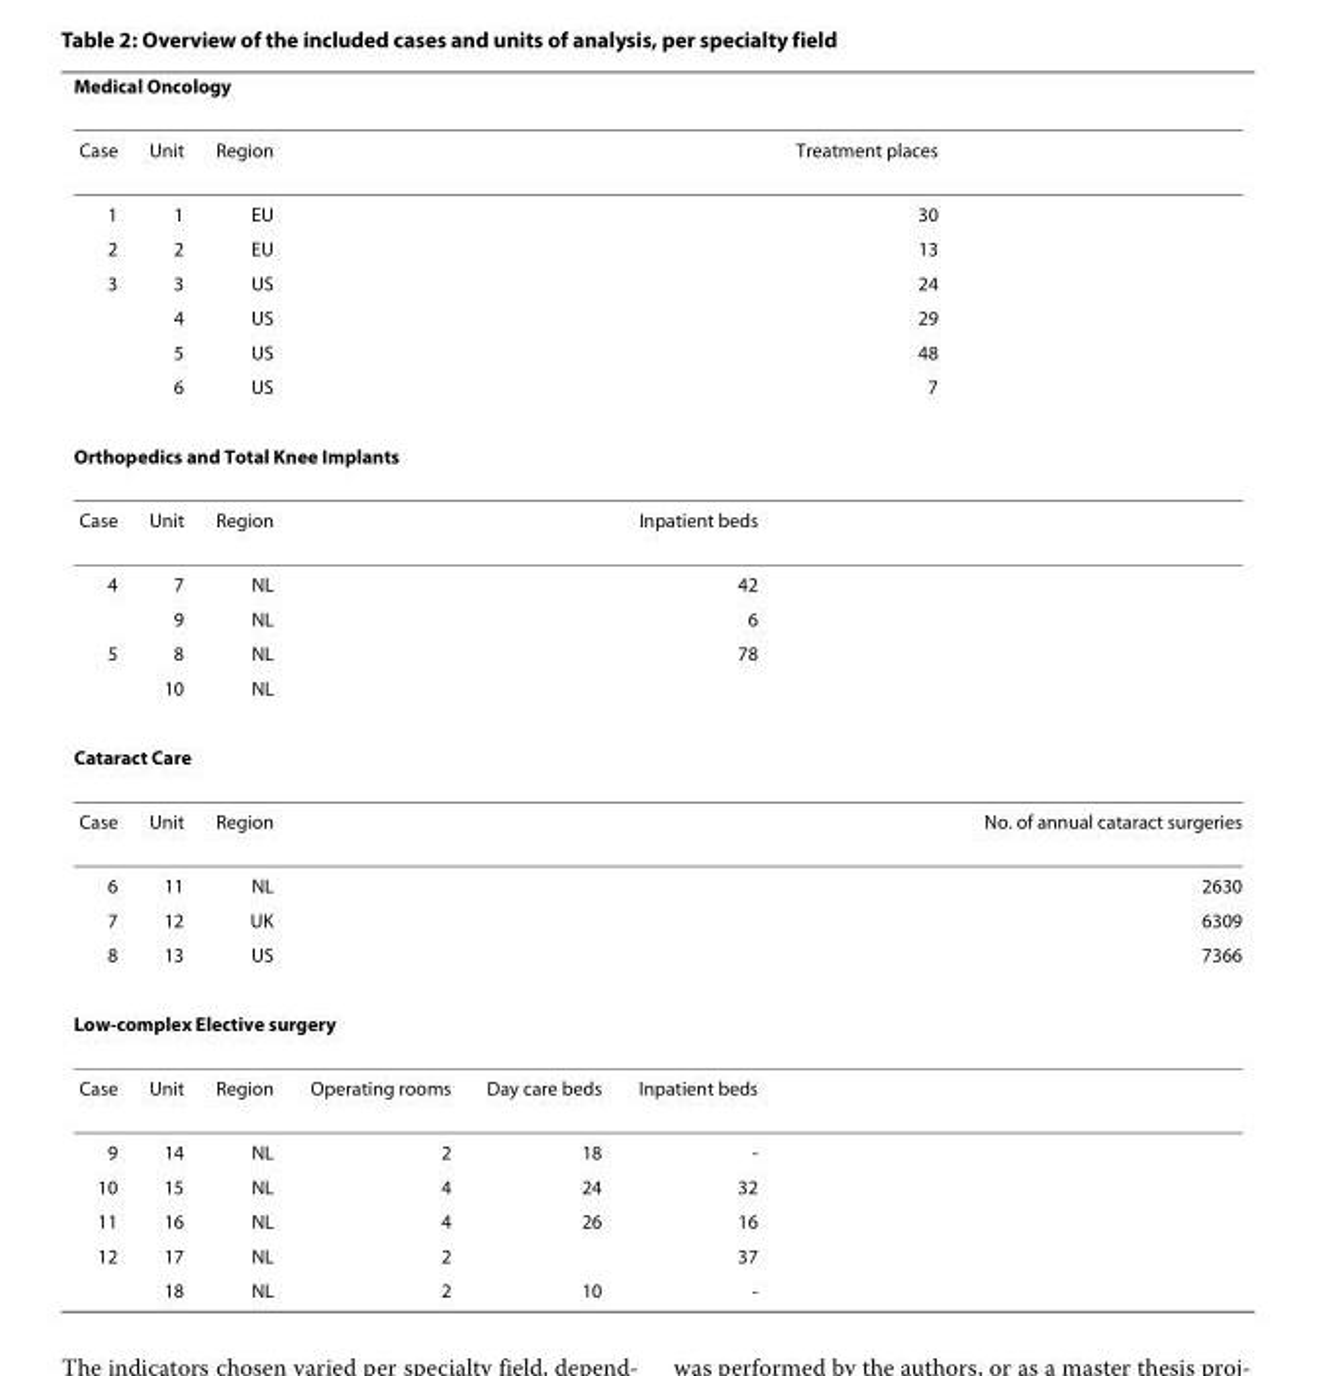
<table><thead><tr><td colspan="8">Medical Oncology</td></tr><tr><td>Case</td><td>Unit</td><td>Region</td><td></td><td></td><td></td><td>Treatment places</td><td></td></tr></thead><tbody><tr><td>1</td><td>1</td><td>EU</td><td></td><td></td><td></td><td>30</td><td></td></tr><tr><td>2</td><td>2</td><td>EU</td><td></td><td></td><td></td><td>13</td><td></td></tr><tr><td rowspan="4">3</td><td>3</td><td>US</td><td></td><td></td><td></td><td>24</td><td></td></tr><tr><td>4</td><td>US</td><td></td><td></td><td></td><td>29</td><td></td></tr><tr><td>5</td><td>US</td><td></td><td></td><td></td><td>48</td><td></td></tr><tr><td>6</td><td>US</td><td></td><td></td><td></td><td>7</td><td></td></tr><tr><td colspan="8">Orthopedics and Total Knee Implants</td></tr><tr><td>Case</td><td>Unit</td><td>Region</td><td></td><td></td><td>Inpatient beds</td><td></td><td></td></tr><tr><td rowspan="2">4</td><td>7</td><td>NL</td><td></td><td></td><td>42</td><td></td><td></td></tr><tr><td>9</td><td>NL</td><td></td><td></td><td>6</td><td></td><td></td></tr><tr><td rowspan="2">5</td><td>8</td><td>NL</td><td></td><td></td><td>78</td><td></td><td></td></tr><tr><td>10</td><td>NL</td><td></td><td></td><td></td><td></td><td></td></tr><tr><td colspan="8">Cataract Care</td></tr><tr><td>Case</td><td>Unit</td><td>Region</td><td></td><td></td><td></td><td></td><td>No. of annual cataract surgeries</td></tr><tr><td>6</td><td>11</td><td>NL</td><td></td><td></td><td></td><td></td><td>2630</td></tr><tr><td>7</td><td>12</td><td>UK</td><td></td><td></td><td></td><td></td><td>6309</td></tr><tr><td>8</td><td>13</td><td>US</td><td></td><td></td><td></td><td></td><td>7366</td></tr><tr><td colspan="8">Low-complex Elective surgery</td></tr><tr><td>Case</td><td>Unit</td><td>Region</td><td>Operating rooms</td><td>Day care beds</td><td>Inpatient beds</td><td></td><td></td></tr><tr><td>9</td><td>14</td><td>NL</td><td>2</td><td>18</td><td>-</td><td></td><td></td></tr><tr><td>10</td><td>15</td><td>NL</td><td>4</td><td>24</td><td>32</td><td></td><td></td></tr><tr><td>11</td><td>16</td><td>NL</td><td>4</td><td>26</td><td>16</td><td></td><td></td></tr><tr><td rowspan="2">12</td><td>17</td><td>NL</td><td>2</td><td></td><td>37</td><td></td><td></td></tr><tr><td>18</td><td>NL</td><td>2</td><td>10</td><td>-</td><td></td><td></td></tr></tbody></table>